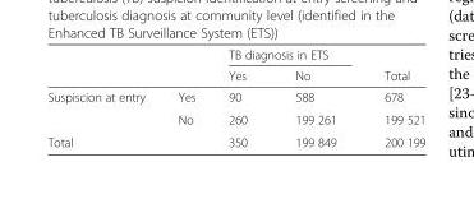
<table><thead><tr><td rowspan="2"></td><td rowspan="2"></td><td colspan="2">TB diagnosis in ETS</td><td rowspan="2">Total</td></tr><tr><td>Yes</td><td>No</td></tr></thead><tbody><tr><td rowspan="2">Suspiscion at entry</td><td>Yes</td><td>90</td><td>588</td><td>678</td></tr><tr><td>No</td><td>260</td><td>199 261</td><td>199 521</td></tr><tr><td colspan="2">Total</td><td>350</td><td>199 849</td><td>200 199</td></tr></tbody></table>